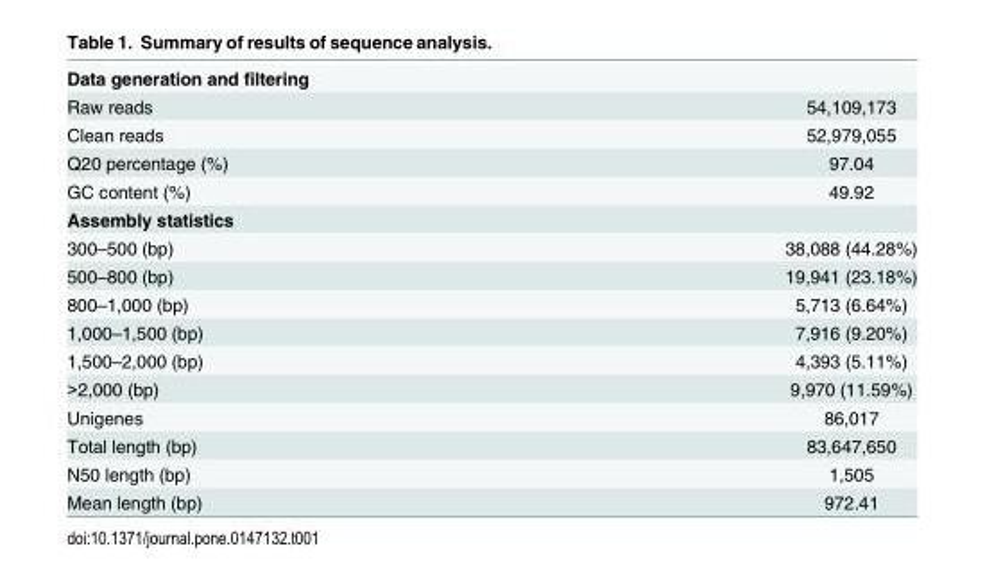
<table><tbody><tr><td colspan="2">Data generation and filtering</td></tr><tr><td>Raw reads</td><td>54,109,173</td></tr><tr><td>Clean reads</td><td>52,979,055</td></tr><tr><td>Q20 percentage (%)</td><td>97.04</td></tr><tr><td>GC content (%)</td><td>49.92</td></tr><tr><td colspan="2">Assembly statistics</td></tr><tr><td>300–500 (bp)</td><td>38,088 (44.28%)</td></tr><tr><td>500–800 (bp)</td><td>19,941 (23.18%)</td></tr><tr><td>800–1,000 (bp)</td><td>5,713 (6.64%)</td></tr><tr><td>1,000–1,500 (bp)</td><td>7,916 (9.20%)</td></tr><tr><td>1,500–2,000 (bp)</td><td>4,393 (5.11%)</td></tr><tr><td>&gt;2,000 (bp)</td><td>9,970 (11.59%)</td></tr><tr><td>Unigenes</td><td>86,017</td></tr><tr><td>Total length (bp)</td><td>83,647,650</td></tr><tr><td>N50 length (bp)</td><td>1,505</td></tr><tr><td>Mean length (bp)</td><td>972.41</td></tr></tbody></table>